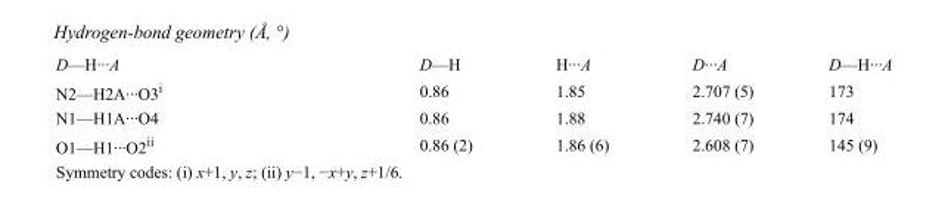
<table><tbody><tr><td>D—H···A</td><td>D—H</td><td>H···A</td><td>D···A</td><td>D—H···A</td></tr><tr><td>N2—H2A···O3<sup>i</sup></td><td>0.86</td><td>1.85</td><td>2.707 (5)</td><td>173</td></tr><tr><td>N1—H1A···O4</td><td>0.86</td><td>1.88</td><td>2.740 (7)</td><td>174</td></tr><tr><td>O1—H1···O2<sup>ii</sup></td><td>0.86 (2)</td><td>1.86 (6)</td><td>2.608 (7)</td><td>145 (9)</td></tr></tbody></table>